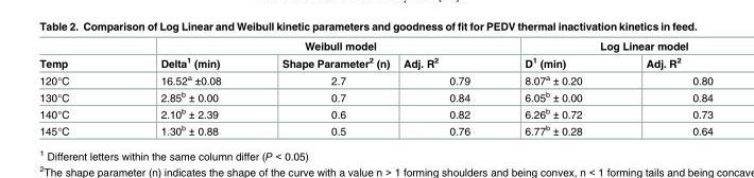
<table><thead><tr><td rowspan="2">Temp</td><td colspan="3">Weibull model</td><td colspan="2">Log Linear model</td></tr><tr><td>Delta<sup>1</sup> (min)</td><td>Shape Parameter<sup>2</sup> (n)</td><td>Adj. R<sup>2</sup></td><td>D<sup>1</sup> (min)</td><td>Adj. R<sup>2</sup></td></tr></thead><tbody><tr><td>120°C</td><td>16.52<sup>a</sup> ±0.08</td><td>2.7</td><td>0.79</td><td>8.07<sup>a</sup> ± 0.20</td><td>0.80</td></tr><tr><td>130°C</td><td>2.85<sup>b</sup> ± 0.00</td><td>0.7</td><td>0.84</td><td>6.05<sup>b</sup> ± 0.00</td><td>0.84</td></tr><tr><td>140°C</td><td>2.10<sup>b</sup> ± 2.39</td><td>0.6</td><td>0.82</td><td>6.26<sup>b</sup> ± 0.72</td><td>0.73</td></tr><tr><td>145°C</td><td>1.30<sup>b</sup> ± 0.88</td><td>0.5</td><td>0.76</td><td>6.77<sup>b</sup> ± 0.28</td><td>0.64</td></tr></tbody></table>